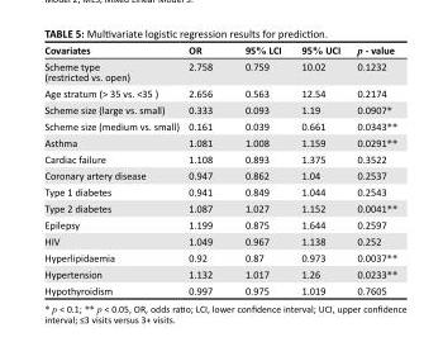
<table><thead><tr><td>Covariates</td><td>OR</td><td>95% LCI</td><td>95% UCI</td><td>p - value</td></tr></thead><tbody><tr><td>Scheme type (restricted vs. open)</td><td>2.758</td><td>0.759</td><td>10.02</td><td>0.1232</td></tr><tr><td>Age stratum (&gt; 35 vs. &lt;35 )</td><td>2.656</td><td>0.563</td><td>12.54</td><td>0.2174</td></tr><tr><td>Scheme size (large vs. small)</td><td>0.333</td><td>0.093</td><td>1.19</td><td>0.0907*</td></tr><tr><td>Scheme size (medium vs. small)</td><td>0.161</td><td>0.039</td><td>0.661</td><td>0.0343**</td></tr><tr><td>Asthma</td><td>1.081</td><td>1.008</td><td>1.159</td><td>0.0291**</td></tr><tr><td>Cardiac failure</td><td>1.108</td><td>0.893</td><td>1.375</td><td>0.3522</td></tr><tr><td>Coronary artery disease</td><td>0.947</td><td>0.862</td><td>1.04</td><td>0.2537</td></tr><tr><td>Type 1 diabetes</td><td>0.941</td><td>0.849</td><td>1.044</td><td>0.2543</td></tr><tr><td>Type 2 diabetes</td><td>1.087</td><td>1.027</td><td>1.152</td><td>0.0041**</td></tr><tr><td>Epilepsy</td><td>1.199</td><td>0.875</td><td>1.644</td><td>0.2597</td></tr><tr><td>HIV</td><td>1.049</td><td>0.967</td><td>1.138</td><td>0.252</td></tr><tr><td>Hyperlipidaemia</td><td>0.92</td><td>0.87</td><td>0.973</td><td>0.0037**</td></tr><tr><td>Hypertension</td><td>1.132</td><td>1.017</td><td>1.26</td><td>0.0233**</td></tr><tr><td>Hypothyroidism</td><td>0.997</td><td>0.975</td><td>1.019</td><td>0.7605</td></tr></tbody></table>